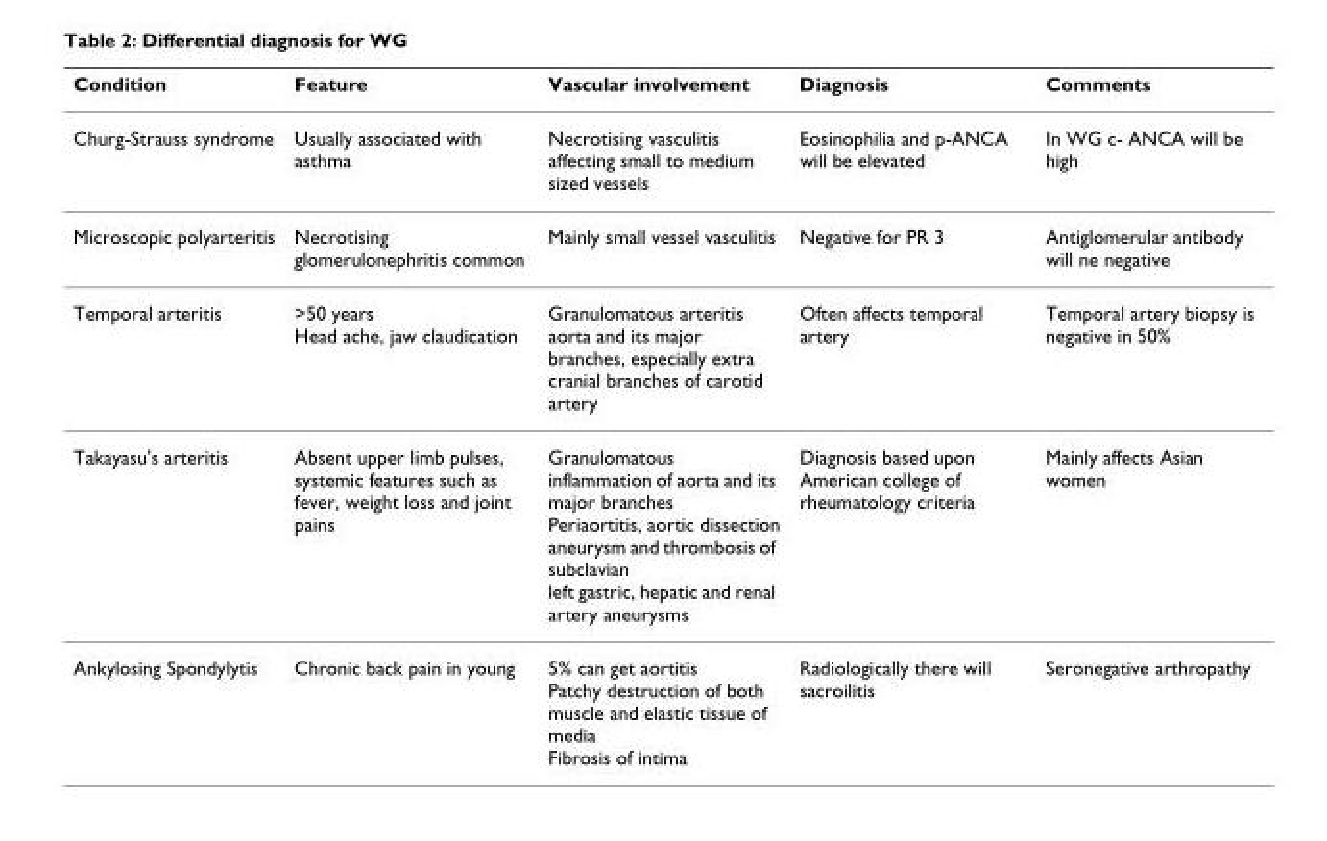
<table><thead><tr><td>Condition</td><td>Feature</td><td>Vascular involvement</td><td>Diagnosis</td><td>Comments</td></tr></thead><tbody><tr><td>Churg-Strauss syndrome</td><td>Usually associated with asthma</td><td>Necrotising vasculitis affecting small to medium sized vessels</td><td>Eosinophilia and p-ANCA will be elevated</td><td>In WG c- ANCA will be high</td></tr><tr><td>Microscopic polyarteritis</td><td>Necrotising glomerulonephritis common</td><td>Mainly small vessel vasculitis</td><td>Negative for PR 3</td><td>Antiglomerular antibody will ne negative</td></tr><tr><td>Temporal arteritis</td><td>&gt;50 years Head ache, jaw claudication</td><td>Granulomatous arteritis aorta and its major branches, especially extra cranial branches of carotid artery</td><td>Often affects temporal artery</td><td>Temporal artery biopsy is negative in 50%</td></tr><tr><td>Takayasu&#x27;s arteritis</td><td>Absent upper limb pulses, systemic features such as fever, weight loss and joint pains</td><td>Granulomatous inflammation of aorta and its major branches Periaortitis, aortic dissection aneurysm and thrombosis of subclavian left gastric, hepatic and renal artery aneurysms</td><td>Diagnosis based upon American college of rheumatology criteria</td><td>Mainly affects Asian women</td></tr><tr><td>Ankylosing Spondylytis</td><td>Chronic back pain in young</td><td>5% can get aortitis Patchy destruction of both muscle and elastic tissue of media Fibrosis of intima</td><td>Radiologically there will sacroilitis</td><td>Seronegative arthropathy</td></tr></tbody></table>